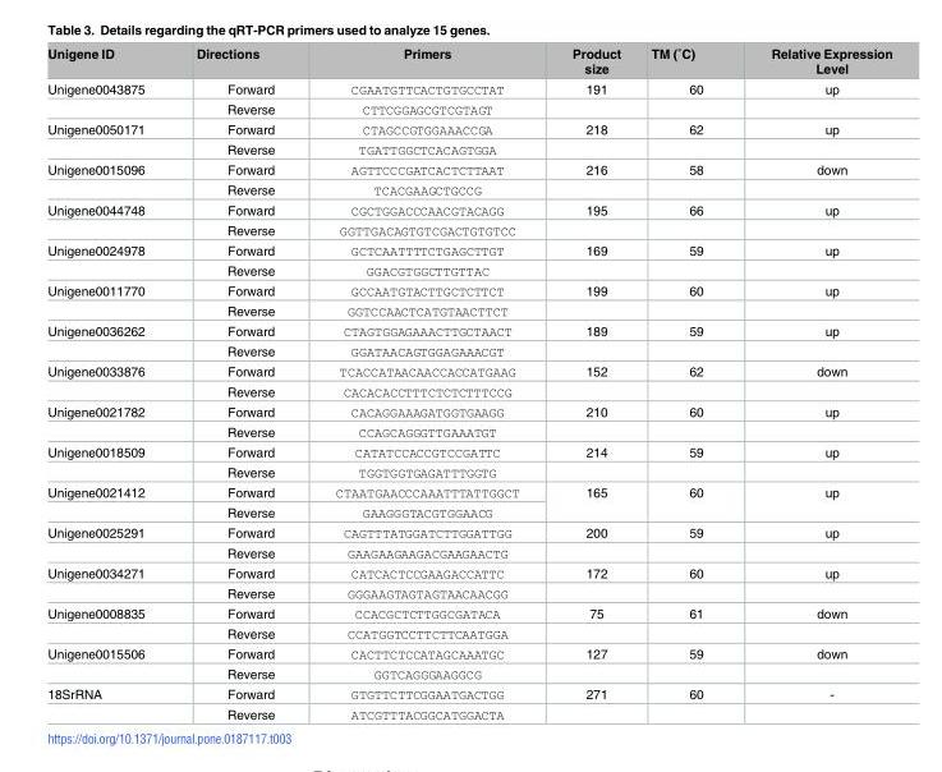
<table><thead><tr><td>Unigene ID</td><td>Directions</td><td>Primers</td><td>Product size</td><td>TM (˚C)</td><td>Relative Expression Level</td></tr></thead><tbody><tr><td rowspan="2">Unigene0043875</td><td>Forward</td><td>CGAATGTTCACTGTGCCTAT</td><td>191</td><td>60</td><td>up</td></tr><tr><td>Reverse</td><td>CTTCGGAGCGTCGTAGT</td><td></td><td></td><td></td></tr><tr><td rowspan="2">Unigene0050171</td><td>Forward</td><td>CTAGCCGTGGAAACCGA</td><td>218</td><td>62</td><td>up</td></tr><tr><td>Reverse</td><td>TGATTGGCTCACAGTGGA</td><td></td><td></td><td></td></tr><tr><td rowspan="2">Unigene0015096</td><td>Forward</td><td>AGTTCCCGATCACTCTTAAT</td><td>216</td><td>58</td><td>down</td></tr><tr><td>Reverse</td><td>TCACGAAGCTGCCG</td><td></td><td></td><td></td></tr><tr><td rowspan="2">Unigene0044748</td><td>Forward</td><td>CGCTGGACCCAACGTACAGG</td><td>195</td><td>66</td><td>up</td></tr><tr><td>Reverse</td><td>GGTTGACAGTGTCGACTGTGTCC</td><td></td><td></td><td></td></tr><tr><td rowspan="2">Unigene0024978</td><td>Forward</td><td>GCTCAATTTTCTGAGCTTGT</td><td>169</td><td>59</td><td>up</td></tr><tr><td>Reverse</td><td>GGACGTGGCTTGTTAC</td><td></td><td></td><td></td></tr><tr><td rowspan="2">Unigene0011770</td><td>Forward</td><td>GCCAATGTACTTGCTCTTCT</td><td>199</td><td>60</td><td>up</td></tr><tr><td>Reverse</td><td>GGTCCAACTCATGTAACTTCT</td><td></td><td></td><td></td></tr><tr><td rowspan="2">Unigene0036262</td><td>Forward</td><td>CTAGTGGAGAAACTTGCTAACT</td><td>189</td><td>59</td><td>up</td></tr><tr><td>Reverse</td><td>GGATAACAGTGGAGAAACGT</td><td></td><td></td><td></td></tr><tr><td rowspan="2">Unigene0033876</td><td>Forward</td><td>TCACCATAACAACCACCATGAAG</td><td>152</td><td>62</td><td>down</td></tr><tr><td>Reverse</td><td>CACACACCTTTCTCTCTTTCCG</td><td></td><td></td><td></td></tr><tr><td rowspan="2">Unigene0021782</td><td>Forward</td><td>CACAGGAAAGATGGTGAAGG</td><td>210</td><td>60</td><td>up</td></tr><tr><td>Reverse</td><td>CCAGCAGGGTTGAAATGT</td><td></td><td></td><td></td></tr><tr><td rowspan="2">Unigene0018509</td><td>Forward</td><td>CATATCCACCGTCCGATTC</td><td>214</td><td>59</td><td>up</td></tr><tr><td>Reverse</td><td>TGGTGGTGAGATTTGGTG</td><td></td><td></td><td></td></tr><tr><td rowspan="2">Unigene0021412</td><td>Forward</td><td>CTAATGAACCCAAATTTATTGGCT</td><td rowspan="2">165</td><td rowspan="2">60</td><td rowspan="2">up</td></tr><tr><td>Reverse</td><td>GAAGGGTACGTGGAACG</td></tr><tr><td rowspan="2">Unigene0025291</td><td>Forward</td><td>CAGTTTATGGATCTTGGATTGG</td><td>200</td><td>59</td><td>up</td></tr><tr><td>Reverse</td><td>GAAGAAGAAGACGAAGAACTG</td><td></td><td></td><td></td></tr><tr><td rowspan="2">Unigene0034271</td><td>Forward</td><td>CATCACTCCGAAGACCATTC</td><td>172</td><td>60</td><td>up</td></tr><tr><td>Reverse</td><td>GGGAAGTAGTAGTAACAACGG</td><td></td><td></td><td></td></tr><tr><td rowspan="2">Unigene0008835</td><td>Forward</td><td>CCACGCTCTTGGCGATACA</td><td>75</td><td>61</td><td>down</td></tr><tr><td>Reverse</td><td>CCATGGTCCTTCTTCAATGGA</td><td></td><td></td><td></td></tr><tr><td rowspan="2">Unigene0015506</td><td>Forward</td><td>CACTTCTCCATAGCAAATGC</td><td>127</td><td>59</td><td>down</td></tr><tr><td>Reverse</td><td>GGTCAGGGAAGGCG</td><td></td><td></td><td></td></tr><tr><td rowspan="2">18SrRNA</td><td>Forward</td><td>GTGTTCTTCGGAATGACTGG</td><td>271</td><td>60</td><td>-</td></tr><tr><td>Reverse</td><td>ATCGTTTACGGCATGGACTA</td><td></td><td></td><td></td></tr></tbody></table>